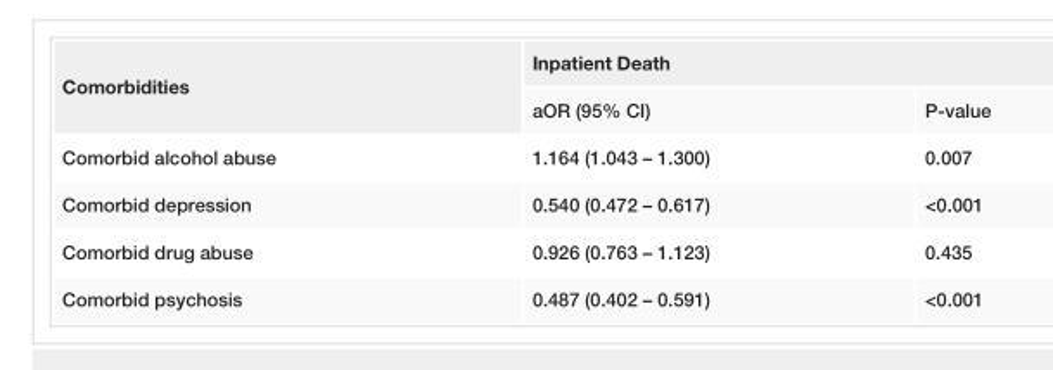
<table><tbody><tr><td rowspan="2">Comorbidities</td><td colspan="2">Inpatient Death</td></tr><tr><td>aOR (95% CI)</td><td>P-value</td></tr><tr><td>Comorbid alcohol abuse</td><td>1.164 (1.043 – 1.300)</td><td>0.007</td></tr><tr><td>Comorbid depression</td><td>0.540 (0.472 – 0.617)</td><td>&lt;0.001</td></tr><tr><td>Comorbid drug abuse</td><td>0.926 (0.763 – 1.123)</td><td>0.435</td></tr><tr><td>Comorbid psychosis</td><td>0.487 (0.402 – 0.591)</td><td>&lt;0.001</td></tr></tbody></table>